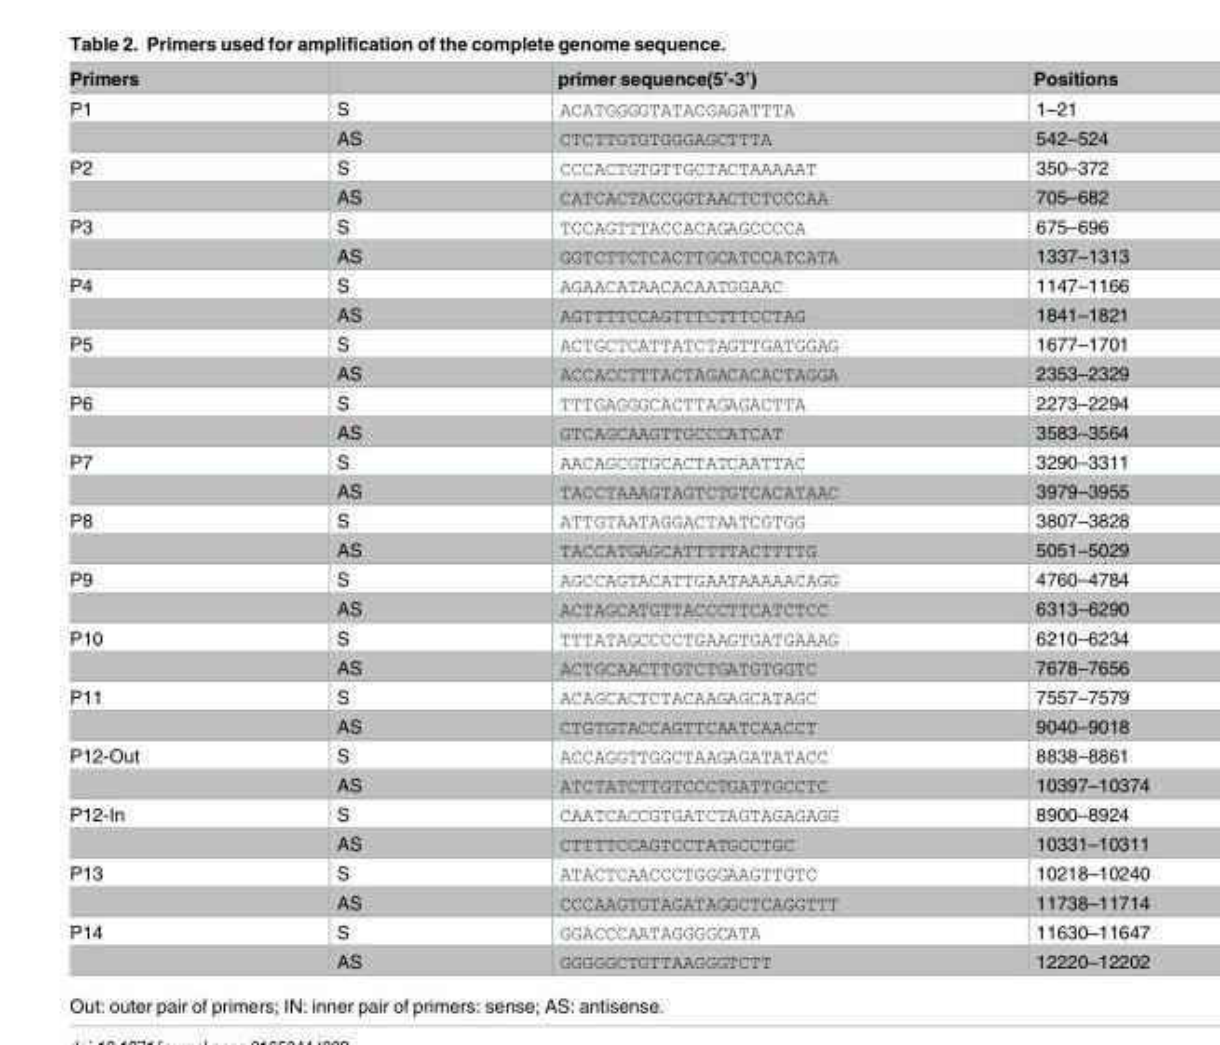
<table><thead><tr><td>Primers</td><td></td><td>primer sequence(5’-3’)</td><td>Positions</td></tr></thead><tbody><tr><td rowspan="2">P1</td><td>S</td><td>ACATGGGGTATACGAGATTTA</td><td>1–21</td></tr><tr><td>AS</td><td>CTCTTGTGTGGGAGCTTTA</td><td>542–524</td></tr><tr><td rowspan="2">P2</td><td>S</td><td>CCCACTGTGTTGCTACTAAAAAT</td><td>350–372</td></tr><tr><td>AS</td><td>CATCACTACCGGTAACTCTCCCAA</td><td>705–682</td></tr><tr><td rowspan="2">P3</td><td>S</td><td>TCCAGTTTACCACAGAGCCCCA</td><td>675–696</td></tr><tr><td>AS</td><td>GGTCTTCTCACTTGCATCCATCATA</td><td>1337–1313</td></tr><tr><td rowspan="2">P4</td><td>S</td><td>AGAACATAACACAATGGAAC</td><td>1147–1166</td></tr><tr><td>AS</td><td>AGTTTTCCAGTTTCTTTCCTAG</td><td>1841–1821</td></tr><tr><td rowspan="2">P5</td><td>S</td><td>ACTGCTCATTATCTAGTTGATGGAG</td><td>1677–1701</td></tr><tr><td>AS</td><td>ACCACCTTTACTAGACACACTAGGA</td><td>2353–2329</td></tr><tr><td rowspan="2">P6</td><td>S</td><td>TTTGAGGGCACTTAGAGACTTA</td><td>2273–2294</td></tr><tr><td>AS</td><td>GTCAGCAAGTTGCCCATCAT</td><td>3583–3564</td></tr><tr><td rowspan="2">P7</td><td>S</td><td>AACAGCGTGCACTATCAATTAC</td><td>3290–3311</td></tr><tr><td>AS</td><td>TACCTAAAGTAGTCTGTCACATAAC</td><td>3979–3955</td></tr><tr><td rowspan="2">P8</td><td>S</td><td>ATTGTAATAGGACTAATCGTGG</td><td>3807–3828</td></tr><tr><td>AS</td><td>TACCATGAGCATTTTTACTTTTG</td><td>5051–5029</td></tr><tr><td rowspan="2">P9</td><td>S</td><td>AGCCAGTACATTGAATAAAAACAGG</td><td>4760–4784</td></tr><tr><td>AS</td><td>ACTAGCATGTTACCCTTCATCTCC</td><td>6313–6290</td></tr><tr><td rowspan="2">P10</td><td>S</td><td>TTTATAGCCCCTGAAGTGATGAAAG</td><td>6210–6234</td></tr><tr><td>AS</td><td>ACTGCAACTTGTCTGATGTGGTC</td><td>7678–7656</td></tr><tr><td rowspan="2">P11</td><td>S</td><td>ACAGCACTCTACAAGAGCATAGC</td><td>7557–7579</td></tr><tr><td>AS</td><td>CTGTGTACCAGTTCAATCAACCT</td><td>9040–9018</td></tr><tr><td rowspan="2">P12-Out</td><td>S</td><td>ACCAGGTTGGCTAAGAGATATACC</td><td>8838–8861</td></tr><tr><td>AS</td><td>ATCTATCTTGTCCCTGATTGCCTC</td><td>10397–10374</td></tr><tr><td rowspan="2">P12-In</td><td>S</td><td>CAATCACCGTGATCTAGTAGAGAGG</td><td>8900–8924</td></tr><tr><td>AS</td><td>CTTTTCCAGTCCTATGCCTGC</td><td>10331–10311</td></tr><tr><td rowspan="2">P13</td><td>S</td><td>ATACTCAACCCTGGGAAGTTGTC</td><td>10218–10240</td></tr><tr><td>AS</td><td>CCCAAGTGTAGATAGGCTCAGGTTT</td><td>11738–11714</td></tr><tr><td rowspan="2">P14</td><td>S</td><td>GGACCCAATAGGGGCATA</td><td>11630–11647</td></tr><tr><td>AS</td><td>GGGGGCTGTTAAGGGTCTT</td><td>12220–12202</td></tr></tbody></table>